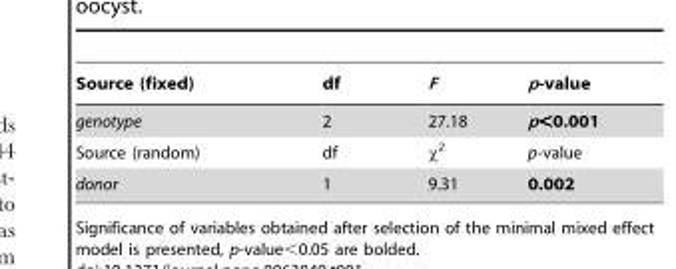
<table><thead><tr><td>Source (fixed)</td><td>df</td><td>F</td><td>p-value</td></tr></thead><tbody><tr><td>genotype</td><td>2</td><td>27.18</td><td>p&lt;0.001</td></tr><tr><td>Source (random)</td><td>df</td><td>x2</td><td>p-value</td></tr><tr><td>donor</td><td>1</td><td>9.31</td><td>0.002</td></tr></tbody></table>